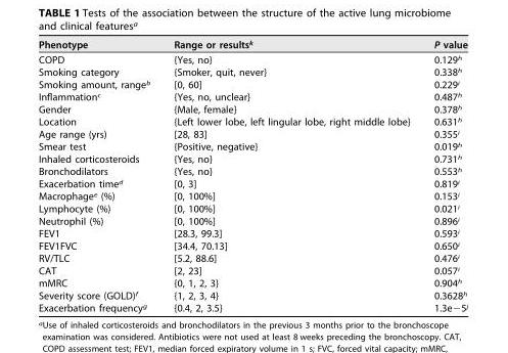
<table><thead><tr><td>Phenotype</td><td>Range or results<sup>k</sup></td><td>P value</td></tr></thead><tbody><tr><td>COPD</td><td>{Yes, no}</td><td>0.129<sup>h</sup></td></tr><tr><td>Smoking category</td><td>{Smoker, quit, never}</td><td>0.338<sup>h</sup></td></tr><tr><td>Smoking amount, range<sup>b</sup></td><td>[0, 60]</td><td>0.229<sup>i</sup></td></tr><tr><td>Inflammation<sup>c</sup></td><td>{Yes, no, unclear}</td><td>0.487<sup>h</sup></td></tr><tr><td>Gender</td><td>{Male, female}</td><td>0.378<sup>h</sup></td></tr><tr><td>Location</td><td>{Left lower lobe, left lingular lobe, right middle lobe}</td><td>0.631<sup>h</sup></td></tr><tr><td>Age range (yrs)</td><td>[28, 83]</td><td>0.355<sup>i</sup></td></tr><tr><td>Smear test</td><td>{Positive, negative}</td><td>0.019<sup>h</sup></td></tr><tr><td>Inhaled corticosteroids</td><td>{Yes, no}</td><td>0.731<sup>h</sup></td></tr><tr><td>Bronchodilators</td><td>{Yes, no}</td><td>0.553<sup>h</sup></td></tr><tr><td>Exacerbation time<sup>d</sup></td><td>[0, 3]</td><td>0.819<sup>i</sup></td></tr><tr><td>Macrophage<sup>e</sup> (%)</td><td>[0, 100%]</td><td>0.153<sup>i</sup></td></tr><tr><td>Lymphocyte (%)</td><td>[0, 100%]</td><td>0.021<sup>i</sup></td></tr><tr><td>Neutrophil (%)</td><td>[0, 100%]</td><td>0.896<sup>i</sup></td></tr><tr><td>FEV1</td><td>[28.3, 99.3]</td><td>0.593<sup>i</sup></td></tr><tr><td>FEV1FVC</td><td>[34.4, 70.13]</td><td>0.650<sup>i</sup></td></tr><tr><td>RV/TLC</td><td>[5.2, 88.6]</td><td>0.476<sup>i</sup></td></tr><tr><td>CAT</td><td>[2, 23]</td><td>0.057<sup>i</sup></td></tr><tr><td>mMRC</td><td>{0, 1, 2, 3}</td><td>0.904<sup>h</sup></td></tr><tr><td>Severity score (GOLD)<sup>f</sup></td><td>{1, 2, 3, 4}</td><td>0.3628<sup>h</sup></td></tr><tr><td>Exacerbation frequency<sup>g</sup></td><td>{0.4, 2, 3.5}</td><td>1.3e−5<sup>j</sup></td></tr></tbody></table>